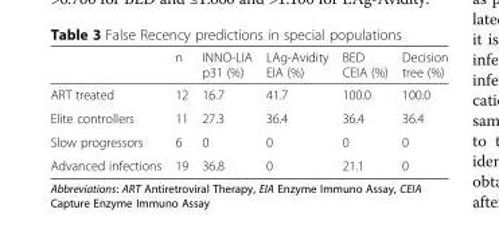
<table><thead><tr><td></td><td>n</td><td>INNO-LIA p31 (%)</td><td>LAg-Avidity EIA (%)</td><td>BED CEIA (%)</td><td>Decision tree (%)</td></tr></thead><tbody><tr><td>ART treated</td><td>12</td><td>16.7</td><td>41.7</td><td>100.0</td><td>100.0</td></tr><tr><td>Elite controllers</td><td>11</td><td>27.3</td><td>36.4</td><td>36.4</td><td>36.4</td></tr><tr><td>Slow progressors</td><td>6</td><td>0</td><td>0</td><td>0</td><td>0</td></tr><tr><td>Advanced infections</td><td>19</td><td>36.8</td><td>0</td><td>21.1</td><td>0</td></tr></tbody></table>